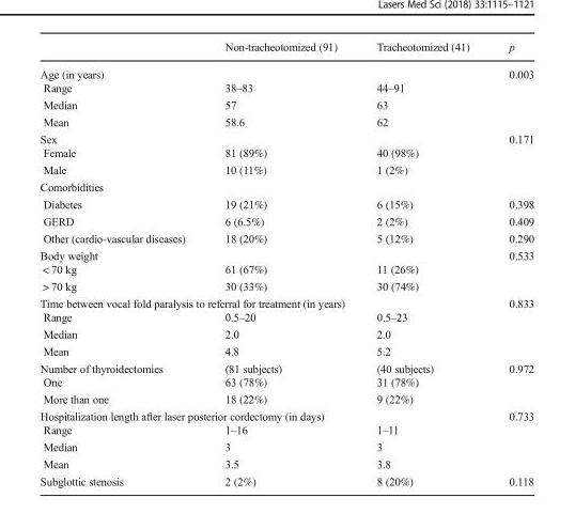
<table><thead><tr><td></td><td>Non-tracheotomized (91)</td><td>Tracheotomized (41)</td><td>p</td></tr></thead><tbody><tr><td colspan="3">Age (in years)</td><td rowspan="4">0.003</td></tr><tr><td>Range</td><td>38–83</td><td>44–91</td></tr><tr><td>Median</td><td>57</td><td>63</td></tr><tr><td>Mean</td><td>58.6</td><td>62</td></tr><tr><td colspan="3">Sex</td><td rowspan="3">0.171</td></tr><tr><td>Female</td><td>81 (89%)</td><td>40 (98%)</td></tr><tr><td>Male</td><td>10 (11%)</td><td>1 (2%)</td></tr><tr><td colspan="4">Comorbidities</td></tr><tr><td>Diabetes</td><td>19 (21%)</td><td>6 (15%)</td><td>0.398</td></tr><tr><td>GERD</td><td>6 (6.5%)</td><td>2 (2%)</td><td>0.409</td></tr><tr><td>Other (cardio-vascular diseases)</td><td>18 (20%)</td><td>5 (12%)</td><td>0.290</td></tr><tr><td colspan="3">Body weight</td><td rowspan="3">0.533</td></tr><tr><td>&lt; 70 kg</td><td>61 (67%)</td><td>11 (26%)</td></tr><tr><td>&gt; 70 kg</td><td>30 (33%)</td><td>30 (74%)</td></tr><tr><td colspan="3">Time between vocal fold paralysis to referral for treatment (in years)</td><td rowspan="4">0.833</td></tr><tr><td>Range</td><td>0.5–20</td><td>0.5–23</td></tr><tr><td>Median</td><td>2.0</td><td>2.0</td></tr><tr><td>Mean</td><td>4.8</td><td>5.2</td></tr><tr><td>Number of thyroidectomies</td><td>(81 subjects)</td><td>(40 subjects)</td><td rowspan="3">0.972</td></tr><tr><td>One</td><td>63 (78%)</td><td>31 (78%)</td></tr><tr><td>More than one</td><td>18 (22%)</td><td>9 (22%)</td></tr><tr><td colspan="3">Hospitalization length after laser posterior cordectomy (in days)</td><td rowspan="4">0.733</td></tr><tr><td>Range</td><td>1–16</td><td>1–11</td></tr><tr><td>Median</td><td>3</td><td>3</td></tr><tr><td>Mean</td><td>3.5</td><td>3.8</td></tr><tr><td>Subglottic stenosis</td><td>2 (2%)</td><td>8 (20%)</td><td>0.118</td></tr></tbody></table>